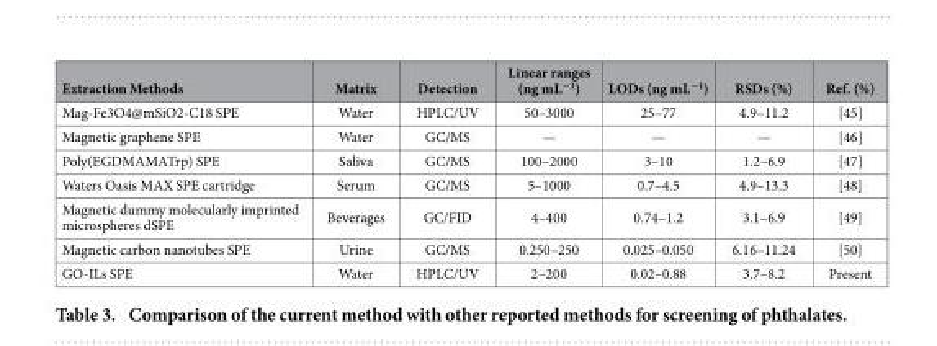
<table><thead><tr><td>Extraction Methods</td><td>Matrix</td><td>Detection</td><td>Linear ranges (ng mL<sup>−1</sup>)</td><td>LODs (ng mL<sup>−1</sup>)</td><td>RSDs (%)</td><td>Ref. (%)</td></tr></thead><tbody><tr><td>Mag-Fe3O4@mSiO2-C18 SPE</td><td>Water</td><td>HPLC/UV</td><td>50–3000</td><td>25–77</td><td>4.9–11.2</td><td>[45]</td></tr><tr><td>Magnetic graphene SPE</td><td>Water</td><td>GC/MS</td><td>—</td><td>—</td><td>—</td><td>[46]</td></tr><tr><td>Poly(EGDMAMATrp) SPE</td><td>Saliva</td><td>GC/MS</td><td>100–2000</td><td>3–10</td><td>1.2–6.9</td><td>[47]</td></tr><tr><td>Waters Oasis MAX SPE cartridge</td><td>Serum</td><td>GC/MS</td><td>5–1000</td><td>0.7–4.5</td><td>4.9–13.3</td><td>[48]</td></tr><tr><td>Magnetic dummy molecularly imprinted microspheres dSPE</td><td>Beverages</td><td>GC/FID</td><td>4–400</td><td>0.74–1.2</td><td>3.1–6.9</td><td>[49]</td></tr><tr><td>Magnetic carbon nanotubes SPE</td><td>Urine</td><td>GC/MS</td><td>0.250–250</td><td>0.025–0.050</td><td>6.16–11.24</td><td>[50]</td></tr><tr><td>GO-ILs SPE</td><td>Water</td><td>HPLC/UV</td><td>2–200</td><td>0.02–0.88</td><td>3.7–8.2</td><td>Present</td></tr></tbody></table>